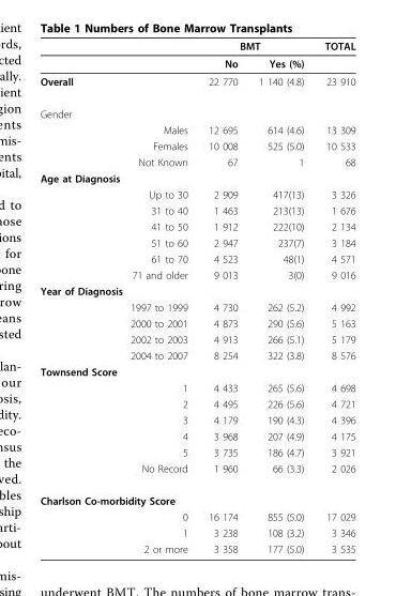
<table><thead><tr><td rowspan="2"></td><td colspan="2">BMT</td><td rowspan="2">TOTAL</td></tr><tr><td>No</td><td>Yes (%)</td></tr></thead><tbody><tr><td>Overall</td><td>22 770</td><td>1 140 (4.8)</td><td>23 910</td></tr><tr><td colspan="4">Gender</td></tr><tr><td>Males</td><td>12 695</td><td>614 (4.6)</td><td>13 309</td></tr><tr><td>Females</td><td>10 008</td><td>525 (5.0)</td><td>10 533</td></tr><tr><td>Not Known</td><td>67</td><td>1</td><td>68</td></tr><tr><td colspan="4">Age at Diagnosis</td></tr><tr><td>Up to 30</td><td>2 909</td><td>417(13)</td><td>3 326</td></tr><tr><td>31 to 40</td><td>1 463</td><td>213(13)</td><td>1 676</td></tr><tr><td>41 to 50</td><td>1 912</td><td>222(10)</td><td>2 134</td></tr><tr><td>51 to 60</td><td>2 947</td><td>237(7)</td><td>3 184</td></tr><tr><td>61 to 70</td><td>4 523</td><td>48(1)</td><td>4 571</td></tr><tr><td>71 and older</td><td>9 013</td><td>3(0)</td><td>9 016</td></tr><tr><td colspan="4">Year of Diagnosis</td></tr><tr><td>1997 to 1999</td><td>4 730</td><td>262 (5.2)</td><td>4 992</td></tr><tr><td>2000 to 2001</td><td>4 873</td><td>290 (5.6)</td><td>5 163</td></tr><tr><td>2002 to 2003</td><td>4 913</td><td>266 (5.1)</td><td>5 179</td></tr><tr><td>2004 to 2007</td><td>8 254</td><td>322 (3.8)</td><td>8 576</td></tr><tr><td colspan="4">Townsend Score</td></tr><tr><td>1</td><td>4 433</td><td>265 (5.6)</td><td>4 698</td></tr><tr><td>2</td><td>4 495</td><td>226 (5.6)</td><td>4 721</td></tr><tr><td>3</td><td>4 179</td><td>190 (4.3)</td><td>4 396</td></tr><tr><td>4</td><td>3 968</td><td>207 (4.9)</td><td>4 175</td></tr><tr><td>5</td><td>3 735</td><td>186 (4.7)</td><td>3 921</td></tr><tr><td>No Record</td><td>1 960</td><td>66 (3.3)</td><td>2 026</td></tr><tr><td colspan="4">Charlson Co-morbidity Score</td></tr><tr><td>0</td><td>16 174</td><td>855 (5.0)</td><td>17 029</td></tr><tr><td>1</td><td>3 238</td><td>108 (3.2)</td><td>3 346</td></tr><tr><td>2 or more</td><td>3 358</td><td>177 (5.0)</td><td>3 535</td></tr></tbody></table>